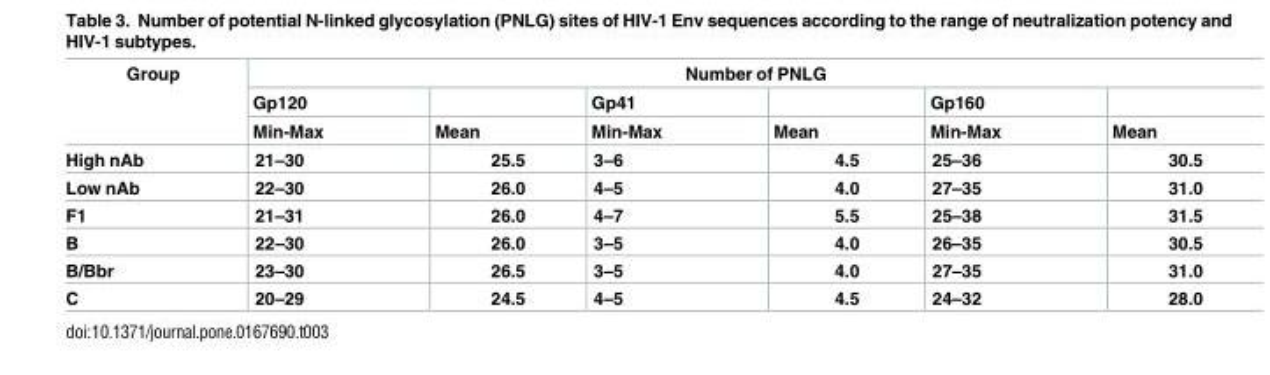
<table><thead><tr><td rowspan="3">Group</td><td colspan="6">Number of PNLG</td></tr><tr><td rowspan="2">Gp120 Min-Max</td><td rowspan="2">Mean</td><td rowspan="2">Gp41 Min-Max</td><td rowspan="2">Mean</td><td rowspan="2">Gp160 Min-Max</td><td rowspan="2">Mean</td></tr><tr></tr></thead><tbody><tr><td>High nAb</td><td>21–30</td><td>25.5</td><td>3–6</td><td>4.5</td><td>25–36</td><td>30.5</td></tr><tr><td>Low nAb</td><td>22–30</td><td>26.0</td><td>4–5</td><td>4.0</td><td>27–35</td><td>31.0</td></tr><tr><td>F1</td><td>21–31</td><td>26.0</td><td>4–7</td><td>5.5</td><td>25–38</td><td>31.5</td></tr><tr><td>B</td><td>22–30</td><td>26.0</td><td>3–5</td><td>4.0</td><td>26–35</td><td>30.5</td></tr><tr><td>B/Bbr</td><td>23–30</td><td>26.5</td><td>3–5</td><td>4.0</td><td>27–35</td><td>31.0</td></tr><tr><td>C</td><td>20–29</td><td>24.5</td><td>4–5</td><td>4.5</td><td>24–32</td><td>28.0</td></tr></tbody></table>